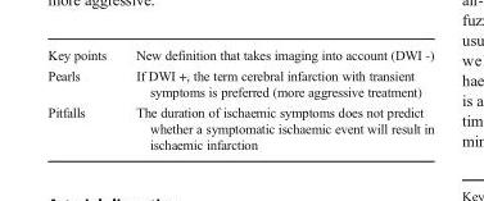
<table><tbody><tr><td>Key points</td><td>New definition that takes imaging into account (DWI -)</td></tr><tr><td>Pearls</td><td>If DWI +, the term cerebral infarction with transient symptoms is preferred (more aggressive treatment)</td></tr><tr><td>Pitfalls</td><td>The duration of ischaemic symptoms does not predict whether a symptomatic ischaemic event will result in ischaemic infarction</td></tr></tbody></table>